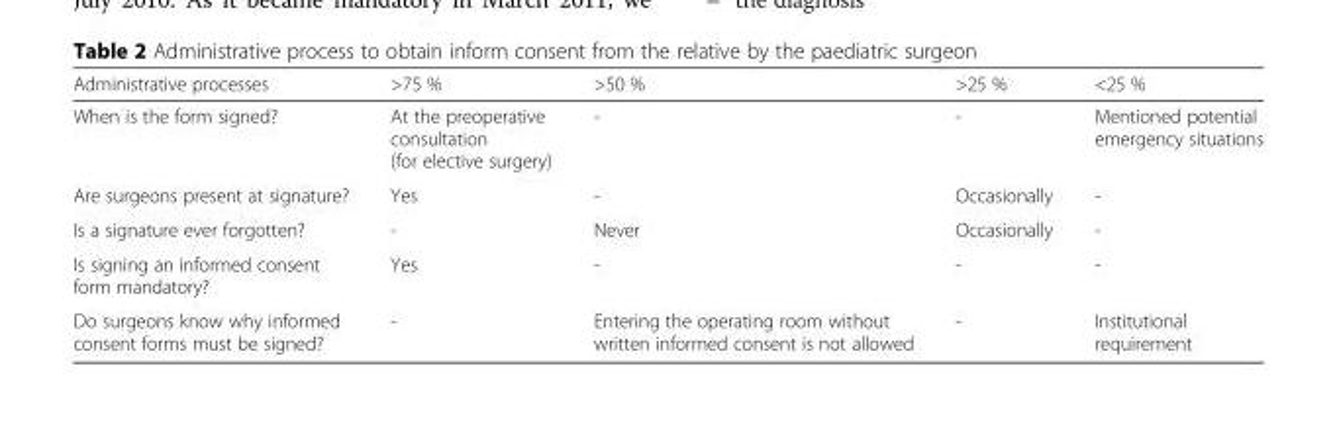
<table><thead><tr><td>Administrative processes</td><td>&gt;75 %</td><td>&gt;50 %</td><td>&gt;25 %</td><td>&lt;25 %</td></tr></thead><tbody><tr><td>When is the form signed?</td><td>At the preoperative consultation (for elective surgery)</td><td>-</td><td>-</td><td>Mentioned potential emergency situations</td></tr><tr><td>Are surgeons present at signature?</td><td>Yes</td><td>-</td><td>Occasionally</td><td>-</td></tr><tr><td>Is a signature ever forgotten?</td><td>-</td><td>Never</td><td>Occasionally</td><td>-</td></tr><tr><td>Is signing an informed consent form mandatory?</td><td>Yes</td><td>-</td><td>-</td><td>-</td></tr><tr><td>Do surgeons know why informed consent forms must be signed?</td><td>-</td><td>Entering the operating room without written informed consent is not allowed</td><td>-</td><td>Institutional requirement</td></tr></tbody></table>